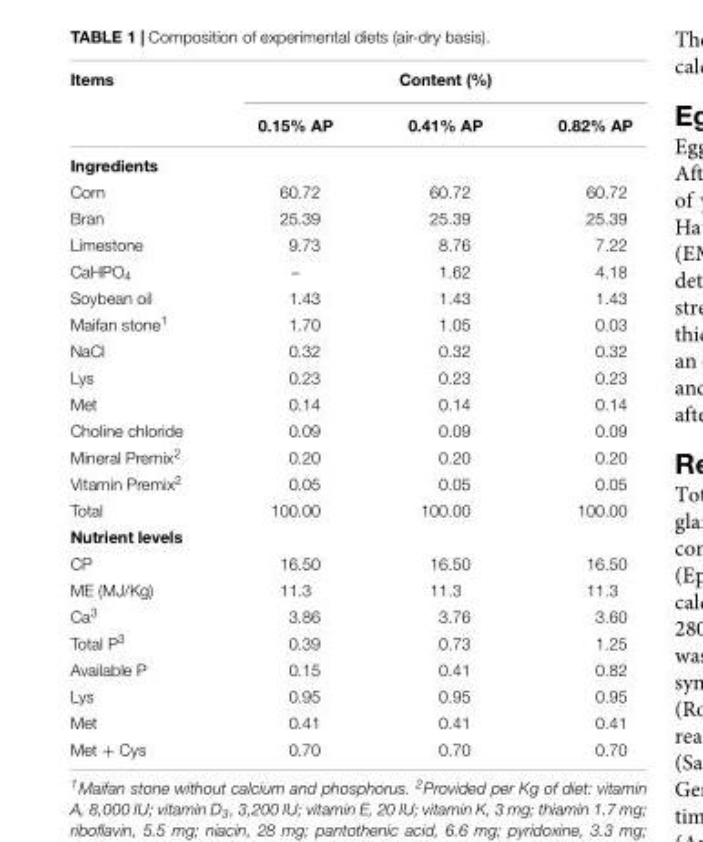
<table><thead><tr><td rowspan="2">Items</td><td colspan="3">Content (%)</td></tr><tr><td>0.15% AP</td><td>0.41% AP</td><td>0.82% AP</td></tr></thead><tbody><tr><td colspan="4">Ingredients</td></tr><tr><td>Corn</td><td>60.72</td><td>60.72</td><td>60.72</td></tr><tr><td>Bran</td><td>25.39</td><td>25.39</td><td>25.39</td></tr><tr><td>Limestone</td><td>9.73</td><td>8.76</td><td>7.22</td></tr><tr><td>CaHPO<sub>4</sub></td><td>–</td><td>1.62</td><td>4.18</td></tr><tr><td>Soybean oil</td><td>1.43</td><td>1.43</td><td>1.43</td></tr><tr><td>Maifan stone<sup>1</sup></td><td>1.70</td><td>1.05</td><td>0.03</td></tr><tr><td>NaCl</td><td>0.32</td><td>0.32</td><td>0.32</td></tr><tr><td>Lys</td><td>0.23</td><td>0.23</td><td>0.23</td></tr><tr><td>Met</td><td>0.14</td><td>0.14</td><td>0.14</td></tr><tr><td>Choline chloride</td><td>0.09</td><td>0.09</td><td>0.09</td></tr><tr><td>Mineral Premix<sup>2</sup></td><td>0.20</td><td>0.20</td><td>0.20</td></tr><tr><td>Vitamin Premix<sup>2</sup></td><td>0.05</td><td>0.05</td><td>0.05</td></tr><tr><td>Total</td><td>100.00</td><td>100.00</td><td>100.00</td></tr><tr><td colspan="4">Nutrient levels</td></tr><tr><td>CP</td><td>16.50</td><td>16.50</td><td>16.50</td></tr><tr><td>ME (MJ/Kg)</td><td>11.3</td><td>11.3</td><td>11.3</td></tr><tr><td>Ca<sup>3</sup></td><td>3.86</td><td>3.76</td><td>3.60</td></tr><tr><td>Total P<sup>3</sup></td><td>0.39</td><td>0.73</td><td>1.25</td></tr><tr><td>Available P</td><td>0.15</td><td>0.41</td><td>0.82</td></tr><tr><td>Lys</td><td>0.95</td><td>0.95</td><td>0.95</td></tr><tr><td>Met</td><td>0.41</td><td>0.41</td><td>0.41</td></tr><tr><td>Met + Cys</td><td>0.70</td><td>0.70</td><td>0.70</td></tr></tbody></table>